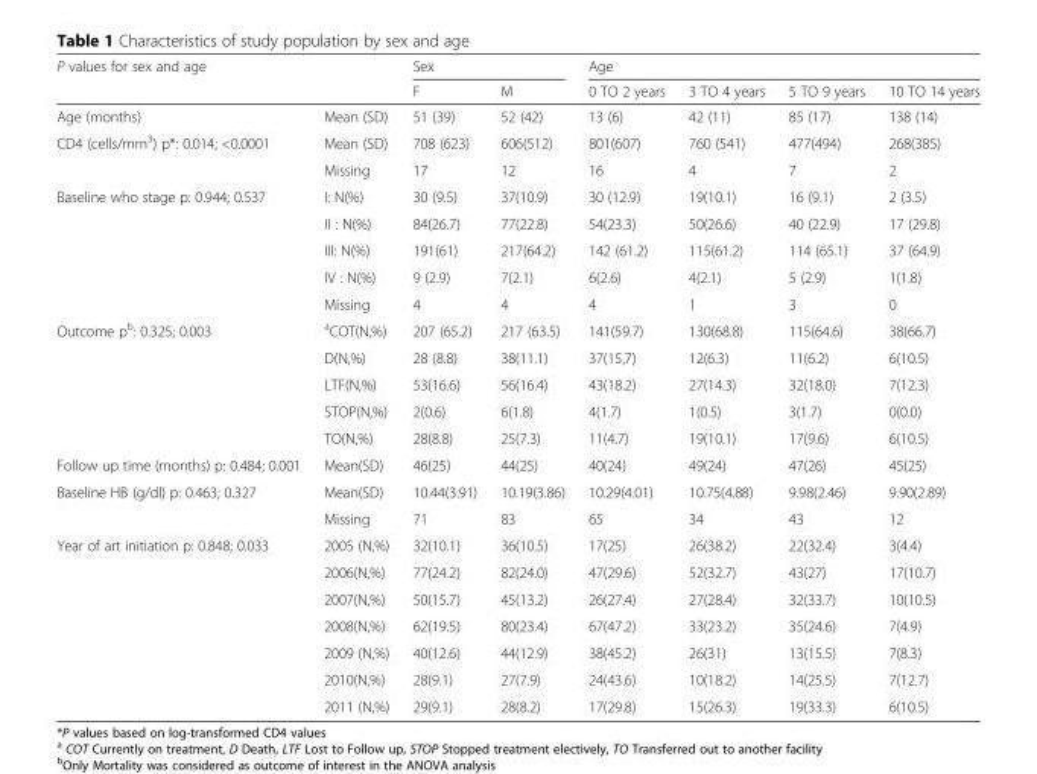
<table><thead><tr><td rowspan="2" colspan="2">P values for sex and age</td><td colspan="2">Sex</td><td colspan="4">Age</td></tr><tr><td rowspan="2">F 51 (39)</td><td rowspan="2">M 52 (42)</td><td rowspan="2">0 TO 2 years 13 (6)</td><td rowspan="2">3 TO 4 years 42 (11)</td><td rowspan="2">5 TO 9 years 85 (17)</td><td rowspan="2">10 TO 14 years 138 (14)</td></tr><tr><td>Age (months)</td><td>Mean (SD)</td></tr></thead><tbody><tr><td rowspan="2">CD4 (cells/mm<sup>3</sup>) p*: 0.014; &lt;0.0001</td><td>Mean (SD)</td><td>708 (623)</td><td>606(512)</td><td>801(607)</td><td>760 (541)</td><td>477(494)</td><td>268(385)</td></tr><tr><td>Missing</td><td>17</td><td>12</td><td>16</td><td>4</td><td>7</td><td>2</td></tr><tr><td rowspan="5">Baseline who stage p: 0.944; 0.537</td><td>I: N(%)</td><td>30 (9.5)</td><td>37(10.9)</td><td>30 (12.9)</td><td>19(10.1)</td><td>16 (9.1)</td><td>2 (3.5)</td></tr><tr><td>II : N(%)</td><td>84(26.7)</td><td>77(22.8)</td><td>54(23.3)</td><td>50(26.6)</td><td>40 (22.9)</td><td>17 (29.8)</td></tr><tr><td>III: N(%)</td><td>191(61)</td><td>217(64.2)</td><td>142 (61.2)</td><td>115(61.2)</td><td>114 (65.1)</td><td>37 (64.9)</td></tr><tr><td>IV : N(%)</td><td>9 (2.9)</td><td>7(2.1)</td><td>6(2.6)</td><td>4(2.1)</td><td>5 (2.9)</td><td>1(1.8)</td></tr><tr><td>Missing</td><td>4</td><td>4</td><td>4</td><td>1</td><td>3</td><td>0</td></tr><tr><td rowspan="5">Outcome p<sup>b</sup>: 0.325; 0.003</td><td><sup>a</sup>COT(N,%)</td><td>207 (65.2)</td><td>217 (63.5)</td><td>141(59.7)</td><td>130(68.8)</td><td>115(64.6)</td><td>38(66.7)</td></tr><tr><td>D(N,%)</td><td>28 (8.8)</td><td>38(11.1)</td><td>37(15,7)</td><td>12(6.3)</td><td>11(6.2)</td><td>6(10.5)</td></tr><tr><td>LTF(N,%)</td><td>53(16.6)</td><td>56(16.4)</td><td>43(18.2)</td><td>27(14.3)</td><td>32(18.0)</td><td>7(12.3)</td></tr><tr><td>STOP(N,%)</td><td>2(0.6)</td><td>6(1.8)</td><td>4(1.7)</td><td>1(0.5)</td><td>3(1.7)</td><td>0(0.0)</td></tr><tr><td>TO(N,%)</td><td>28(8.8)</td><td>25(7.3)</td><td>11(4.7)</td><td>19(10.1)</td><td>17(9.6)</td><td>6(10.5)</td></tr><tr><td>Follow up time (months) p: 0.484; 0.001</td><td>Mean(SD)</td><td>46(25)</td><td>44(25)</td><td>40(24)</td><td>49(24)</td><td>47(26)</td><td>45(25)</td></tr><tr><td rowspan="2">Baseline HB (g/dl) p: 0.463; 0.327</td><td>Mean(SD)</td><td>10.44(3.91)</td><td>10.19(3.86)</td><td>10.29(4.01)</td><td>10.75(4.88)</td><td>9.98(2.46)</td><td>9.90(2.89)</td></tr><tr><td>Missing</td><td>71</td><td>83</td><td>65</td><td>34</td><td>43</td><td>12</td></tr><tr><td rowspan="7">Year of art initiation p: 0.848; 0.033</td><td>2005 (N,%)</td><td>32(10.1)</td><td>36(10.5)</td><td>17(25)</td><td>26(38.2)</td><td>22(32.4)</td><td>3(4.4)</td></tr><tr><td>2006(N,%)</td><td>77(24.2)</td><td>82(24.0)</td><td>47(29.6)</td><td>52(32.7)</td><td>43(27)</td><td>17(10.7)</td></tr><tr><td>2007(N,%)</td><td>50(15.7)</td><td>45(13.2)</td><td>26(27.4)</td><td>27(28.4)</td><td>32(33.7)</td><td>10(10.5)</td></tr><tr><td>2008(N,%)</td><td>62(19.5)</td><td>80(23.4)</td><td>67(47.2)</td><td>33(23.2)</td><td>35(24.6)</td><td>7(4.9)</td></tr><tr><td>2009 (N,%)</td><td>40(12.6)</td><td>44(12.9)</td><td>38(45.2)</td><td>26(31)</td><td>13(15.5)</td><td>7(8.3)</td></tr><tr><td>2010(N,%)</td><td>28(9.1)</td><td>27(7.9)</td><td>24(43.6)</td><td>10(18.2)</td><td>14(25.5)</td><td>7(12.7)</td></tr><tr><td>2011 (N,%)</td><td>29(9.1)</td><td>28(8.2)</td><td>17(29.8)</td><td>15(26.3)</td><td>19(33.3)</td><td>6(10.5)</td></tr></tbody></table>